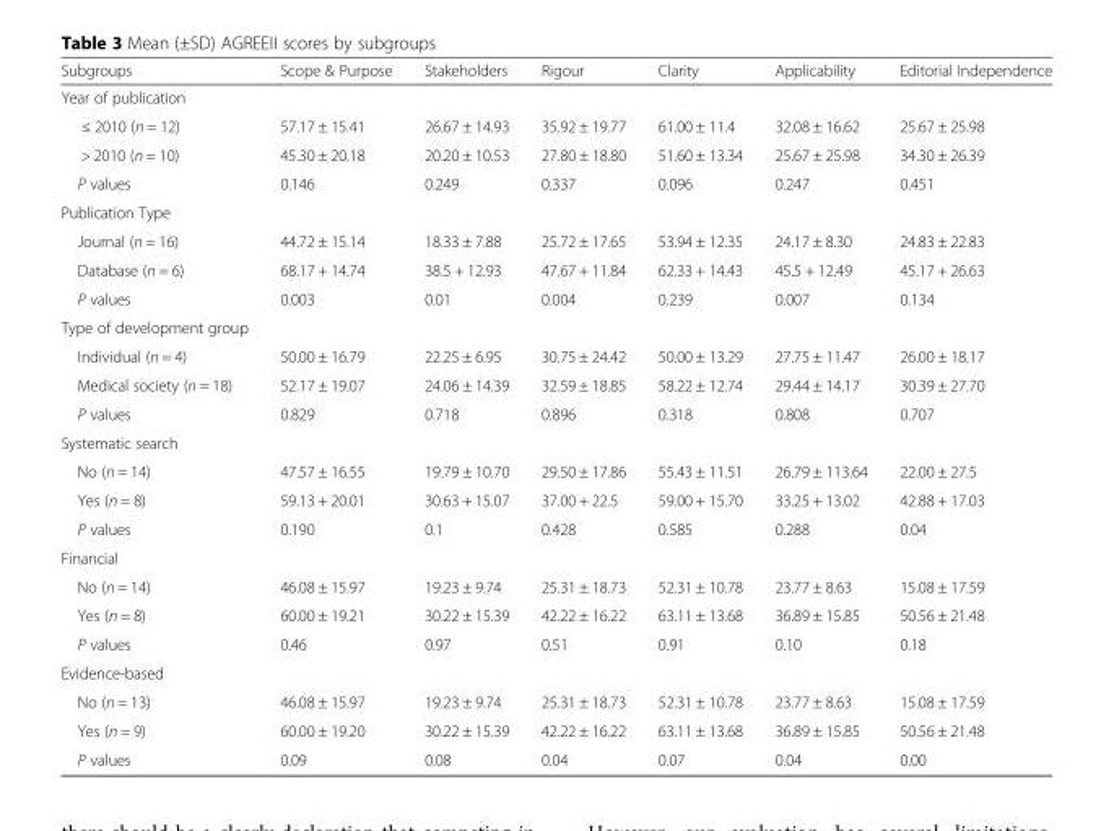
<table><thead><tr><td>Subgroups</td><td>Scope &amp; Purpose</td><td>Stakeholders</td><td>Rigour</td><td>Clarity</td><td>Applicability</td><td>Editorial Independence</td></tr></thead><tbody><tr><td colspan="7">Year of publication</td></tr><tr><td>≤ 2010 (n = 12)</td><td>57.17 ± 15.41</td><td>26.67 ± 14.93</td><td>35.92 ± 19.77</td><td>61.00 ± 11.4</td><td>32.08 ± 16.62</td><td>25.67 ± 25.98</td></tr><tr><td>&gt; 2010 (n = 10)</td><td>45.30 ± 20.18</td><td>20.20 ± 10.53</td><td>27.80 ± 18.80</td><td>51.60 ± 13.34</td><td>25.67 ± 25.98</td><td>34.30 ± 26.39</td></tr><tr><td>P values</td><td>0.146</td><td>0.249</td><td>0.337</td><td>0.096</td><td>0.247</td><td>0.451</td></tr><tr><td colspan="7">Publication Type</td></tr><tr><td>Journal (n = 16)</td><td>44.72 ± 15.14</td><td>18.33 ± 7.88</td><td>25.72 ± 17.65</td><td>53.94 ± 12.35</td><td>24.17 ± 8.30</td><td>24.83 ± 22.83</td></tr><tr><td>Database (n = 6)</td><td>68.17 + 14.74</td><td>38.5 + 12.93</td><td>47.67 + 11.84</td><td>62.33 + 14.43</td><td>45.5 + 12.49</td><td>45.17 + 26.63</td></tr><tr><td>P values</td><td>0.003</td><td>0.01</td><td>0.004</td><td>0.239</td><td>0.007</td><td>0.134</td></tr><tr><td colspan="7">Type of development group</td></tr><tr><td>Individual (n = 4)</td><td>50.00 ± 16.79</td><td>22.25 ± 6.95</td><td>30.75 ± 24.42</td><td>50.00 ± 13.29</td><td>27.75 ± 11.47</td><td>26.00 ± 18.17</td></tr><tr><td>Medical society (n = 18)</td><td>52.17 ± 19.07</td><td>24.06 ± 14.39</td><td>32.59 ± 18.85</td><td>58.22 ± 12.74</td><td>29.44 ± 14.17</td><td>30.39 ± 27.70</td></tr><tr><td>P values</td><td>0.829</td><td>0.718</td><td>0.896</td><td>0.318</td><td>0.808</td><td>0.707</td></tr><tr><td colspan="7">Systematic search</td></tr><tr><td>No (n = 14)</td><td>47.57 ± 16.55</td><td>19.79 ± 10.70</td><td>29.50 ± 17.86</td><td>55.43 ± 11.51</td><td>26.79 ± 113.64</td><td>22.00 ± 27.5</td></tr><tr><td>Yes (n = 8)</td><td>59.13 + 20.01</td><td>30.63 + 15.07</td><td>37.00 + 22.5</td><td>59.00 + 15.70</td><td>33.25 + 13.02</td><td>42.88 + 17.03</td></tr><tr><td>P values</td><td>0.190</td><td>0.1</td><td>0.428</td><td>0.585</td><td>0.288</td><td>0.04</td></tr><tr><td colspan="7">Financial</td></tr><tr><td>No (n = 14)</td><td>46.08 ± 15.97</td><td>19.23 ± 9.74</td><td>25.31 ± 18.73</td><td>52.31 ± 10.78</td><td>23.77 ± 8.63</td><td>15.08 ± 17.59</td></tr><tr><td>Yes (n = 8)</td><td>60.00 ± 19.21</td><td>30.22 ± 15.39</td><td>42.22 ± 16.22</td><td>63.11 ± 13.68</td><td>36.89 ± 15.85</td><td>50.56 ± 21.48</td></tr><tr><td>P values</td><td>0.46</td><td>0.97</td><td>0.51</td><td>0.91</td><td>0.10</td><td>0.18</td></tr><tr><td colspan="7">Evidence-based</td></tr><tr><td>No (n = 13)</td><td>46.08 ± 15.97</td><td>19.23 ± 9.74</td><td>25.31 ± 18.73</td><td>52.31 ± 10.78</td><td>23.77 ± 8.63</td><td>15.08 ± 17.59</td></tr><tr><td>Yes (n = 9)</td><td>60.00 ± 19.20</td><td>30.22 ± 15.39</td><td>42.22 ± 16.22</td><td>63.11 ± 13.68</td><td>36.89 ± 15.85</td><td>50.56 ± 21.48</td></tr><tr><td>P values</td><td>0.09</td><td>0.08</td><td>0.04</td><td>0.07</td><td>0.04</td><td>0.00</td></tr></tbody></table>